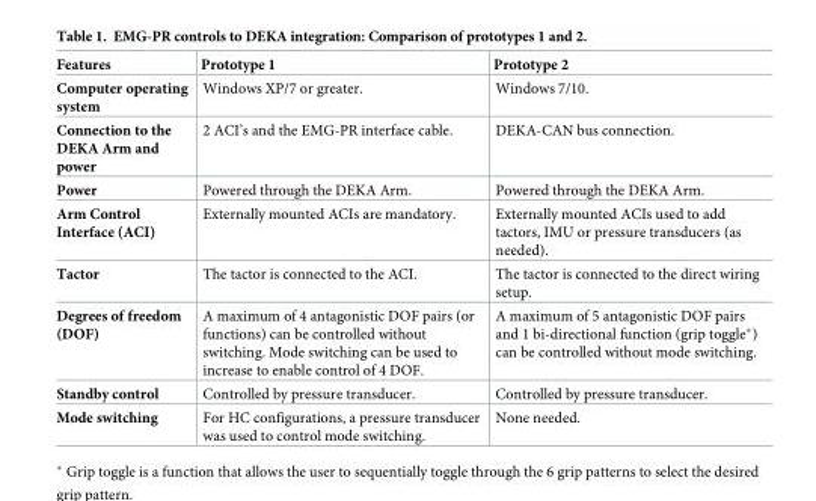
<table><thead><tr><td>Features</td><td>Prototype 1</td><td>Prototype 2</td></tr></thead><tbody><tr><td>Computer operating system</td><td>Windows XP/7 or greater.</td><td>Windows 7/10.</td></tr><tr><td>Connection to the DEKA Arm and power</td><td>2 ACI’s and the EMG-PR interface cable.</td><td>DEKA-CAN bus connection.</td></tr><tr><td>Power</td><td>Powered through the DEKA Arm.</td><td>Powered through the DEKA Arm.</td></tr><tr><td>Arm Control Interface (ACI)</td><td>Externally mounted ACIs are mandatory.</td><td>Externally mounted ACIs used to add tactors, IMU or pressure transducers (as needed).</td></tr><tr><td>Tactor</td><td>The tactor is connected to the ACI.</td><td>The tactor is connected to the direct wiring setup.</td></tr><tr><td>Degrees of freedom (DOF)</td><td>A maximum of 4 antagonistic DOF pairs (or functions) can be controlled without switching. Mode switching can be used to increase to enable control of 4 DOF.</td><td>A maximum of 5 antagonistic DOF pairs and 1 bi-directional function (grip toggle*) can be controlled without mode switching.</td></tr><tr><td>Standby control</td><td>Controlled by pressure transducer.</td><td>Controlled by pressure transducer.</td></tr><tr><td>Mode switching</td><td>For HC configurations, a pressure transducer was used to control mode switching.</td><td>None needed.</td></tr></tbody></table>